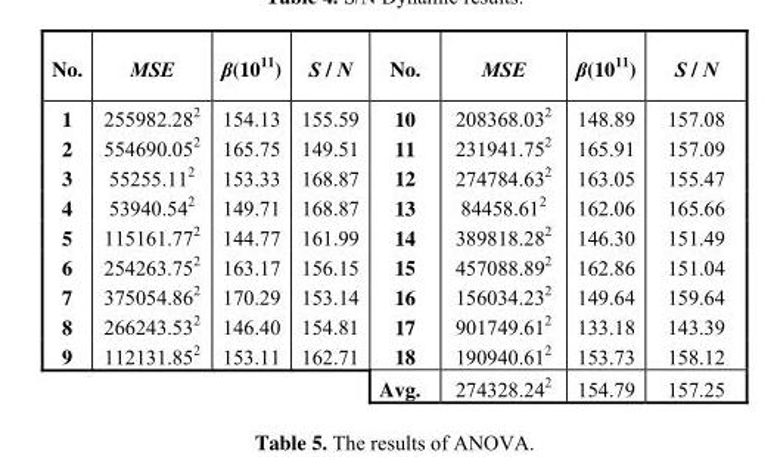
<table><thead><tr><td>No.</td><td>MSE</td><td>β(10<sup>11</sup>)</td><td>S / N</td><td>No.</td><td>MSE</td><td>β(10<sup>11</sup>)</td><td>S / N</td></tr></thead><tbody><tr><td>1</td><td>255982.28<sup>2</sup></td><td>154.13</td><td>155.59</td><td>10</td><td>208368.03<sup>2</sup></td><td>148.89</td><td>157.08</td></tr><tr><td>2</td><td>554690.05<sup>2</sup></td><td>165.75</td><td>149.51</td><td>11</td><td>231941.75<sup>2</sup></td><td>165.91</td><td>157.09</td></tr><tr><td>3</td><td>55255.11<sup>2</sup></td><td>153.33</td><td>168.87</td><td>12</td><td>274784.63<sup>2</sup></td><td>163.05</td><td>155.47</td></tr><tr><td>4</td><td>53940.54<sup>2</sup></td><td>149.71</td><td>168.87</td><td>13</td><td>84458.61<sup>2</sup></td><td>162.06</td><td>165.66</td></tr><tr><td>5</td><td>115161.77<sup>2</sup></td><td>144.77</td><td>161.99</td><td>14</td><td>389818.28<sup>2</sup></td><td>146.30</td><td>151.49</td></tr><tr><td>6</td><td>254263.75<sup>2</sup></td><td>163.17</td><td>156.15</td><td>15</td><td>457088.89<sup>2</sup></td><td>162.86</td><td>151.04</td></tr><tr><td>7</td><td>375054.86<sup>2</sup></td><td>170.29</td><td>153.14</td><td>16</td><td>156034.23<sup>2</sup></td><td>149.64</td><td>159.64</td></tr><tr><td>8</td><td>266243.53<sup>2</sup></td><td>146.40</td><td>154.81</td><td>17</td><td>901749.61<sup>2</sup></td><td>133.18</td><td>143.39</td></tr><tr><td>9</td><td>112131.85<sup>2</sup></td><td>153.11</td><td>162.71</td><td>18</td><td>190940.61<sup>2</sup></td><td>153.73</td><td>158.12</td></tr><tr><td colspan="4"></td><td>Avg.</td><td>274328.24<sup>2</sup></td><td>154.79</td><td>157.25</td></tr></tbody></table>